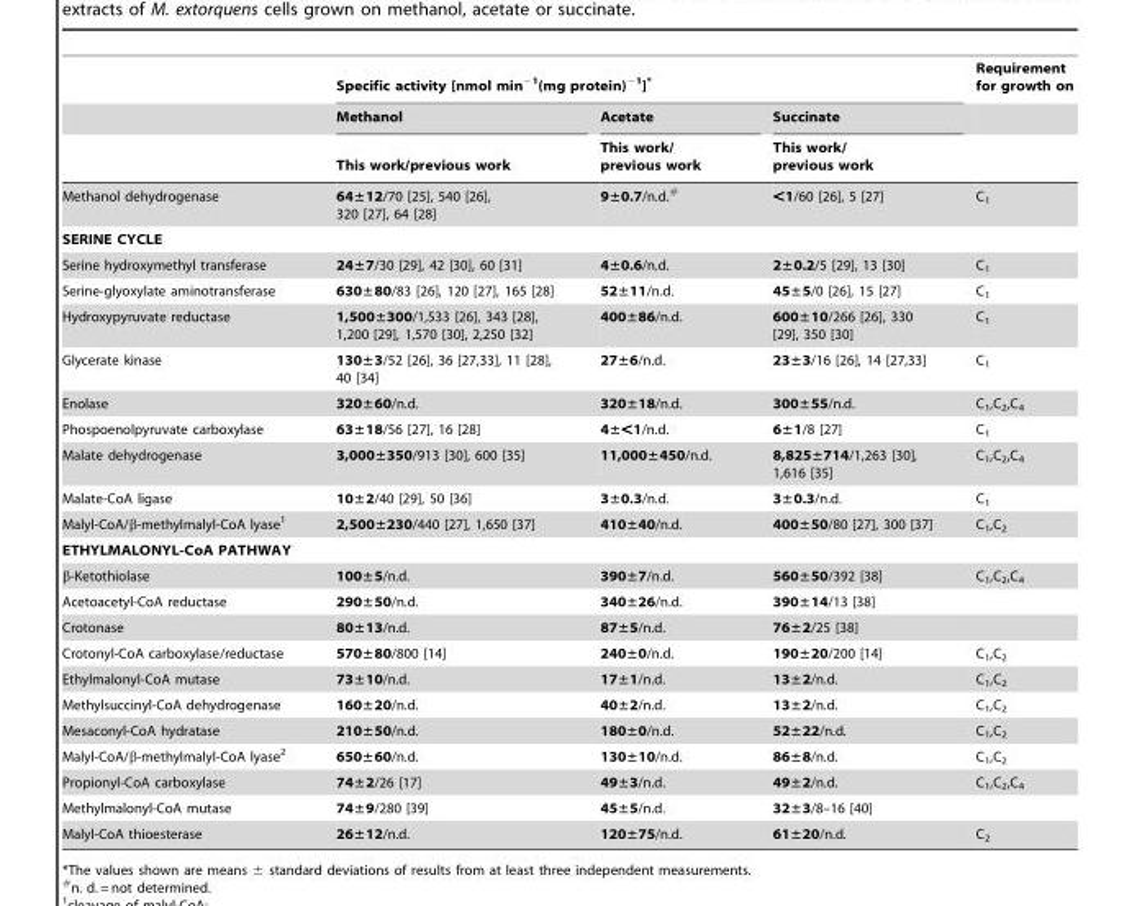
<table><thead><tr><td rowspan="3"></td><td colspan="3">Specific activity [nmol min<sup>−1</sup>(mg protein)<sup>−1</sup>]*</td><td rowspan="3">Requirement for growth on</td></tr><tr><td rowspan="2">Methanol This work/previous work</td><td rowspan="2">Acetate This work/ previous work</td><td rowspan="2">Succinate This work/ previous work</td></tr><tr></tr></thead><tbody><tr><td>Methanol dehydrogenase</td><td>64±12/70 [25], 540 [26], 320 [27], 64 [28]</td><td>9±0.7/n.d.#</td><td>&lt;1/60 [26], 5 [27]</td><td>C<sub>1</sub></td></tr><tr><td colspan="5">SERINE CYCLE</td></tr><tr><td>Serine hydroxymethyl transferase</td><td>24±7/30 [29], 42 [30], 60 [31]</td><td>4±0.6/n.d.</td><td>2±0.2/5 [29], 13 [30]</td><td>C<sub>1</sub></td></tr><tr><td>Serine-glyoxylate aminotransferase</td><td>630±80/83 [26], 120 [27], 165 [28]</td><td>52±11/n.d.</td><td>45±5/0 [26], 15 [27]</td><td>C<sub>1</sub></td></tr><tr><td>Hydroxypyruvate reductase</td><td>1,500±300/1,533 [26], 343 [28], 1,200 [29], 1,570 [30], 2,250 [32]</td><td>400±86/n.d.</td><td>600±10/266 [26], 330 [29], 350 [30]</td><td>C<sub>1</sub></td></tr><tr><td>Glycerate kinase</td><td>130±3/52 [26], 36 [27,33], 11 [28], 40 [34]</td><td>27±6/n.d.</td><td>23±3/16 [26], 14 [27,33]</td><td>C<sub>1</sub></td></tr><tr><td>Enolase</td><td>320±60/n.d.</td><td>320±18/n.d.</td><td>300±55/n.d.</td><td>C<sub>1</sub>,C<sub>2</sub>,C<sub>4</sub></td></tr><tr><td>Phospoenolpyruvate carboxylase</td><td>63±18/56 [27], 16 [28]</td><td>4±&lt;1/n.d.</td><td>6±1/8 [27]</td><td>C<sub>1</sub></td></tr><tr><td>Malate dehydrogenase</td><td>3,000±350/913 [30], 600 [35]</td><td>11,000±450/n.d.</td><td>8,825±714/1,263 [30], 1,616 [35]</td><td>C<sub>1</sub>,C<sub>2</sub>,C<sub>4</sub></td></tr><tr><td>Malate-CoA ligase</td><td>10±2/40 [29], 50 [36]</td><td>3±0.3/n.d.</td><td>3±0.3/n.d.</td><td>C<sub>1</sub></td></tr><tr><td>Malyl-CoA/β-methylmalyl-CoA lyase<sup>1</sup></td><td>2,500±230/440 [27], 1,650 [37]</td><td>410±40/n.d.</td><td>400±50/80 [27], 300 [37]</td><td>C<sub>1</sub>,C<sub>2</sub></td></tr><tr><td colspan="5">ETHYLMALONYL-CoA PATHWAY</td></tr><tr><td>β-Ketothiolase</td><td>100±5/n.d.</td><td>390±7/n.d.</td><td>560±50/392 [38]</td><td>C<sub>1</sub>,C<sub>2</sub>,C<sub>4</sub></td></tr><tr><td>Acetoacetyl-CoA reductase</td><td>290±50/n.d.</td><td>340±26/n.d.</td><td>390±14/13 [38]</td><td></td></tr><tr><td>Crotonase</td><td>80±13/n.d.</td><td>87±5/n.d.</td><td>76±2/25 [38]</td><td></td></tr><tr><td>Crotonyl-CoA carboxylase/reductase</td><td>570±80/800 [14]</td><td>240±0/n.d.</td><td>190±20/200 [14]</td><td>C<sub>1</sub>,C<sub>2</sub></td></tr><tr><td>Ethylmalonyl-CoA mutase</td><td>73±10/n.d.</td><td>17±1/n.d.</td><td>13±2/n.d.</td><td>C<sub>1</sub>,C<sub>2</sub></td></tr><tr><td>Methylsuccinyl-CoA dehydrogenase</td><td>160±20/n.d.</td><td>40±2/n.d.</td><td>13±2/n.d.</td><td>C<sub>1</sub>,C<sub>2</sub></td></tr><tr><td>Mesaconyl-CoA hydratase</td><td>210±50/n.d.</td><td>180±0/n.d.</td><td>52±22/n.d.</td><td>C<sub>1</sub>,C<sub>2</sub></td></tr><tr><td>Malyl-CoA/β-methylmalyl-CoA lyase<sup>2</sup></td><td>650±60/n.d.</td><td>130±10/n.d.</td><td>86±8/n.d.</td><td>C<sub>1</sub>,C<sub>2</sub></td></tr><tr><td>Propionyl-CoA carboxylase</td><td>74±2/26 [17]</td><td>49±3/n.d.</td><td>49±2/n.d.</td><td>C<sub>1</sub>,C<sub>2</sub>,C<sub>4</sub></td></tr><tr><td>Methylmalonyl-CoA mutase</td><td>74±9/280 [39]</td><td>45±5/n.d.</td><td>32±3/8–16 [40]</td><td></td></tr><tr><td>Malyl-CoA thioesterase</td><td>26±12/n.d.</td><td>120±75/n.d.</td><td>61±20/n.d.</td><td>C<sub>2</sub></td></tr></tbody></table>